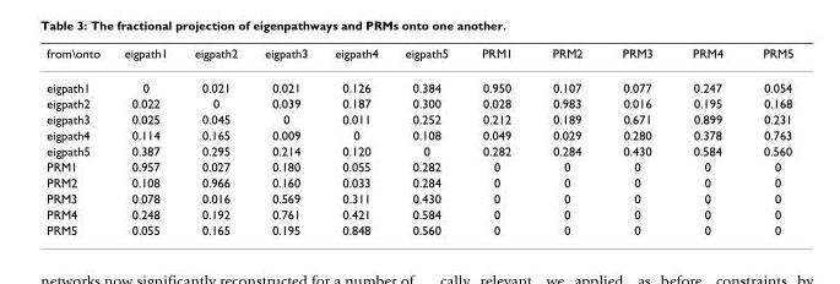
<table><thead><tr><td>from\onto</td><td>eigpath1</td><td>eigpath2</td><td>eigpath3</td><td>eigpath4</td><td>eigpath5</td><td>PRM1</td><td>PRM2</td><td>PRM3</td><td>PRM4</td><td>PRM5</td></tr></thead><tbody><tr><td>eigpath1</td><td>0</td><td>0.021</td><td>0.021</td><td>0.126</td><td>0.384</td><td>0.950</td><td>0.107</td><td>0.077</td><td>0.247</td><td>0.054</td></tr><tr><td>eigpath2</td><td>0.022</td><td>0</td><td>0.039</td><td>0.187</td><td>0.300</td><td>0.028</td><td>0.983</td><td>0.016</td><td>0.195</td><td>0.168</td></tr><tr><td>eigpath3</td><td>0.025</td><td>0.045</td><td>0</td><td>0.011</td><td>0.252</td><td>0.212</td><td>0.189</td><td>0.671</td><td>0.899</td><td>0.231</td></tr><tr><td>eigpath4</td><td>0.114</td><td>0.165</td><td>0.009</td><td>0</td><td>0.108</td><td>0.049</td><td>0.029</td><td>0.280</td><td>0.378</td><td>0.763</td></tr><tr><td>eigpath5</td><td>0.387</td><td>0.295</td><td>0.214</td><td>0.120</td><td>0</td><td>0.282</td><td>0.284</td><td>0.430</td><td>0.584</td><td>0.560</td></tr><tr><td>PRM1</td><td>0.957</td><td>0.027</td><td>0.180</td><td>0.055</td><td>0.282</td><td>0</td><td>0</td><td>0</td><td>0</td><td>0</td></tr><tr><td>PRM2</td><td>0.108</td><td>0.966</td><td>0.160</td><td>0.033</td><td>0.284</td><td>0</td><td>0</td><td>0</td><td>0</td><td>0</td></tr><tr><td>PRM3</td><td>0.078</td><td>0.016</td><td>0.569</td><td>0.311</td><td>0.430</td><td>0</td><td>0</td><td>0</td><td>0</td><td>0</td></tr><tr><td>PRM4</td><td>0.248</td><td>0.192</td><td>0.761</td><td>0.421</td><td>0.584</td><td>0</td><td>0</td><td>0</td><td>0</td><td>0</td></tr><tr><td>PRM5</td><td>0.055</td><td>0.165</td><td>0.195</td><td>0.848</td><td>0.560</td><td>0</td><td>0</td><td>0</td><td>0</td><td>0</td></tr></tbody></table>